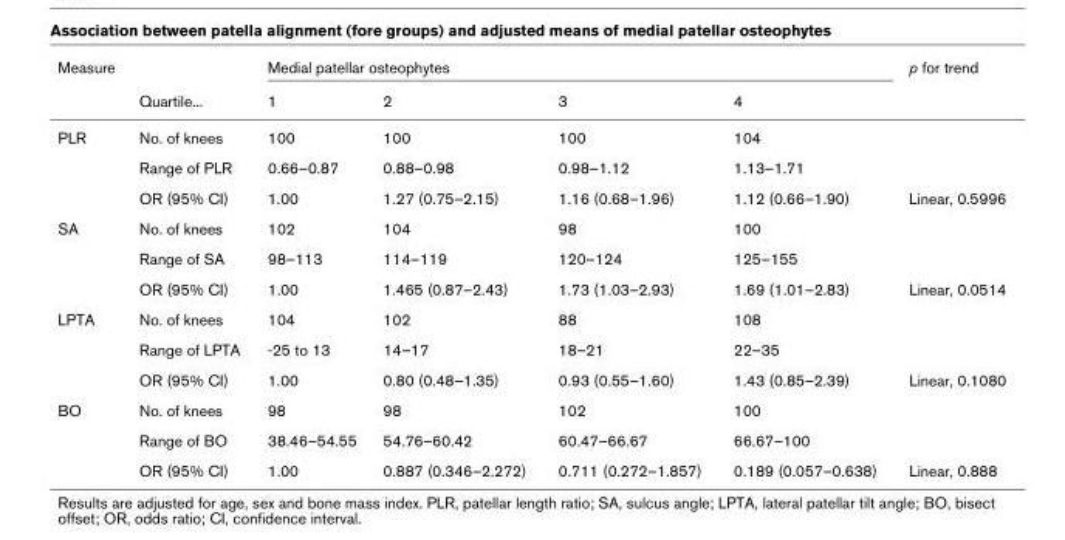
<table><thead><tr><td rowspan="2">Measure</td><td rowspan="2">Quartile...</td><td colspan="4">Medial patellar osteophytes</td><td rowspan="2">p for trend</td></tr><tr><td>1</td><td>2</td><td>3</td><td>4</td></tr></thead><tbody><tr><td rowspan="3">PLR</td><td>No. of knees</td><td>100</td><td>100</td><td>100</td><td>104</td><td></td></tr><tr><td>Range of PLR</td><td>0.66–0.87</td><td>0.88–0.98</td><td>0.98–1.12</td><td>1.13–1.71</td><td></td></tr><tr><td>OR (95% CI)</td><td>1.00</td><td>1.27 (0.75–2.15)</td><td>1.16 (0.68–1.96)</td><td>1.12 (0.66–1.90)</td><td>Linear, 0.5996</td></tr><tr><td rowspan="3">SA</td><td>No. of knees</td><td>102</td><td>104</td><td>98</td><td>100</td><td></td></tr><tr><td>Range of SA</td><td>98–113</td><td>114–119</td><td>120–124</td><td>125–155</td><td></td></tr><tr><td>OR (95% CI)</td><td>1.00</td><td>1.465 (0.87–2.43)</td><td>1.73 (1.03–2.93)</td><td>1.69 (1.01–2.83)</td><td>Linear, 0.0514</td></tr><tr><td rowspan="3">LPTA</td><td>No. of knees</td><td>104</td><td>102</td><td>88</td><td>108</td><td></td></tr><tr><td>Range of LPTA</td><td>-25 to 13</td><td>14–17</td><td>18–21</td><td>22–35</td><td></td></tr><tr><td>OR (95% CI)</td><td>1.00</td><td>0.80 (0.48–1.35)</td><td>0.93 (0.55–1.60)</td><td>1.43 (0.85–2.39)</td><td>Linear, 0.1080</td></tr><tr><td rowspan="3">BO</td><td>No. of knees</td><td>98</td><td>98</td><td>102</td><td>100</td><td></td></tr><tr><td>Range of BO</td><td>38.46–54.55</td><td>54.76–60.42</td><td>60.47–66.67</td><td>66.67–100</td><td></td></tr><tr><td>OR (95% CI)</td><td>1.00</td><td>0.887 (0.346–2.272)</td><td>0.711 (0.272–1.857)</td><td>0.189 (0.057–0.638)</td><td>Linear, 0.888</td></tr></tbody></table>